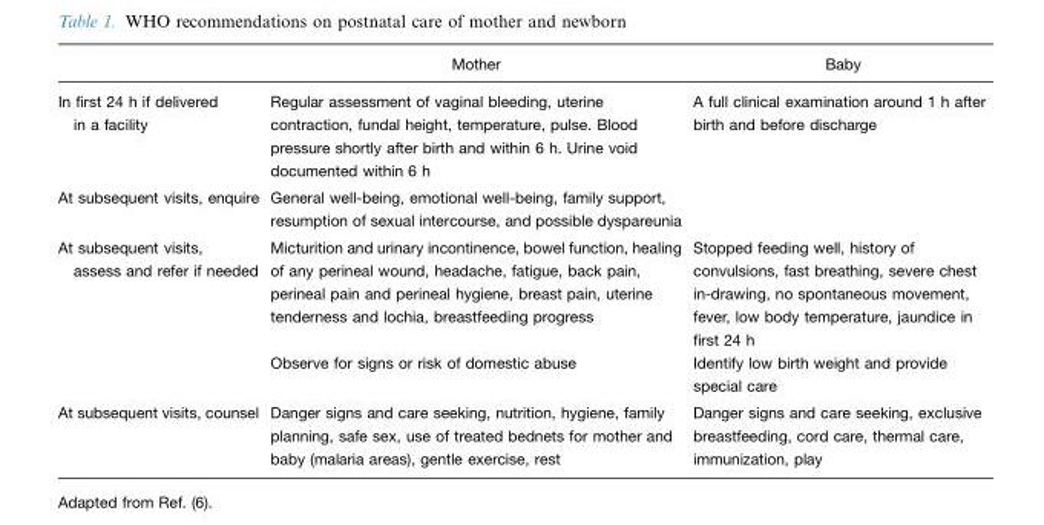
<table><thead><tr><td></td><td>Mother</td><td>Baby</td></tr></thead><tbody><tr><td>In first 24 h if delivered in a facility</td><td>Regular assessment of vaginal bleeding, uterine contraction, fundal height, temperature, pulse. Blood pressure shortly after birth and within 6 h. Urine void documented within 6 h</td><td>A full clinical examination around 1 h after birth and before discharge</td></tr><tr><td>At subsequent visits, enquire</td><td>General well-being, emotional well-being, family support, resumption of sexual intercourse, and possible dyspareunia</td><td></td></tr><tr><td rowspan="2">At subsequent visits, assess and refer if needed</td><td>Micturition and urinary incontinence, bowel function, healing of any perineal wound, headache, fatigue, back pain, perineal pain and perineal hygiene, breast pain, uterine tenderness and lochia, breastfeeding progress</td><td>Stopped feeding well, history of convulsions, fast breathing, severe chest in-drawing, no spontaneous movement, fever, low body temperature, jaundice in first 24 h</td></tr><tr><td>Observe for signs or risk of domestic abuse</td><td>Identify low birth weight and provide special care</td></tr><tr><td>At subsequent visits, counsel</td><td>Danger signs and care seeking, nutrition, hygiene, family planning, safe sex, use of treated bednets for mother and baby (malaria areas), gentle exercise, rest</td><td>Danger signs and care seeking, exclusive breastfeeding, cord care, thermal care, immunization, play</td></tr></tbody></table>